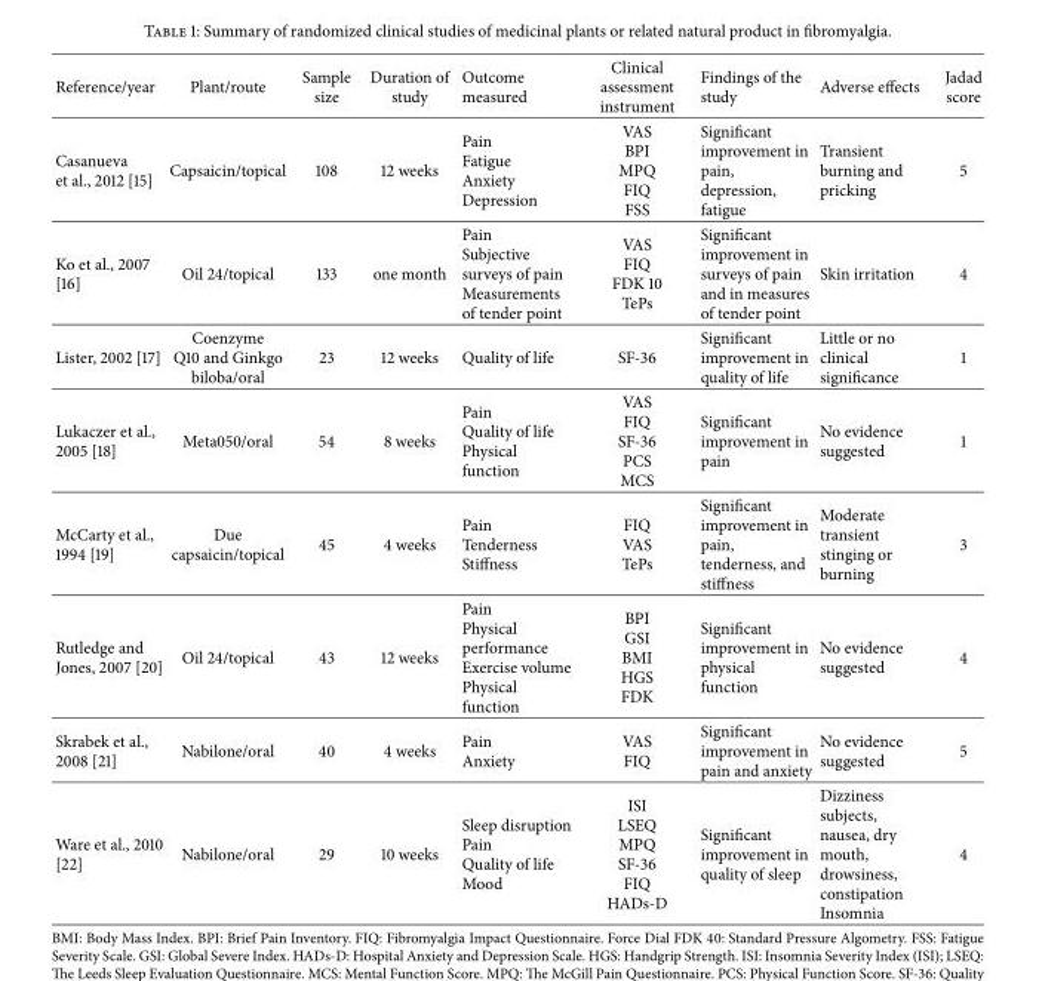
<table><thead><tr><td>Reference/year</td><td>Plant/route</td><td>Sample size</td><td>Duration of study</td><td>Outcome measured</td><td>Clinical assessment instrument</td><td>Findings of the study</td><td>Adverse effects</td><td>Jadad score</td></tr></thead><tbody><tr><td>Casanueva et al., 2012 [15]</td><td>Capsaicin/topical</td><td>108</td><td>12 weeks</td><td>Pain Fatigue Anxiety Depression</td><td>VAS BPI MPQ FIQ FSS</td><td>Significant improvement in pain, depression, fatigue</td><td>Transient burning and pricking</td><td>5</td></tr><tr><td>Ko et al., 2007 [16]</td><td>Oil 24/topical</td><td>133</td><td>one month</td><td>Pain Subjective surveys of pain Measurements of tender point</td><td>VAS FIQ FDK 10 TePs</td><td>Significant improvement in surveys of pain and in measures of tender point</td><td>Skin irritation</td><td>4</td></tr><tr><td>Lister, 2002 [17]</td><td>Coenzyme Q10 and Ginkgo biloba/oral</td><td>23</td><td>12 weeks</td><td>Quality of life</td><td>SF-36</td><td>Significant improvement in quality of life</td><td>Little or no clinical significance</td><td>1</td></tr><tr><td>Lukaczer et al., 2005 [18]</td><td>Meta050/oral</td><td>54</td><td>8 weeks</td><td>Pain Quality of life Physical function</td><td>VAS FIQ SF-36 PCS MCS</td><td>Significant improvement in pain</td><td>No evidence suggested</td><td>1</td></tr><tr><td>McCarty et al., 1994 [19]</td><td>Due capsaicin/topical</td><td>45</td><td>4 weeks</td><td>Pain Tenderness Stiffness</td><td>FIQ VAS TePs</td><td>Significant improvement in pain, tenderness, and stiffness</td><td>Moderate transient stinging or burning</td><td>3</td></tr><tr><td>Rutledge and Jones, 2007 [20]</td><td>Oil 24/topical</td><td>43</td><td>12 weeks</td><td>Pain Physical performance Exercise volume Physical function</td><td>BPI GSI BMI HGS FDK</td><td>Significant improvement in physical function</td><td>No evidence suggested</td><td>4</td></tr><tr><td>Skrabek et al., 2008 [21]</td><td>Nabilone/oral</td><td>40</td><td>4 weeks</td><td>Pain Anxiety</td><td>VAS FIQ</td><td>Significant improvement in pain and anxiety</td><td>No evidence suggested</td><td>5</td></tr><tr><td>Ware et al., 2010 [22]</td><td>Nabilone/oral</td><td>29</td><td>10 weeks</td><td>Sleep disruption Pain Quality of life Mood</td><td>ISI LSEQ MPQ SF-36 FIQ HADs-D</td><td>Significant improvement in quality of sleep</td><td>Dizziness subjects, nausea, dry mouth, drowsiness, constipation Insomnia</td><td>4</td></tr></tbody></table>